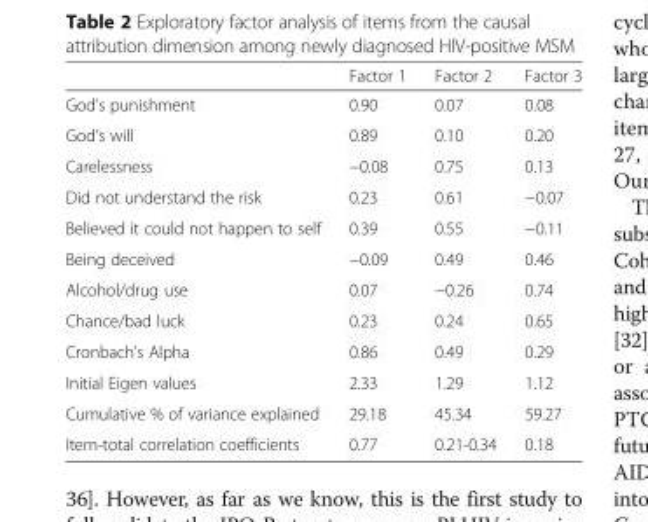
<table><thead><tr><td></td><td>Factor 1</td><td>Factor 2</td><td>Factor 3</td></tr></thead><tbody><tr><td>God’s punishment</td><td>0.90</td><td>0.07</td><td>0.08</td></tr><tr><td>God’s will</td><td>0.89</td><td>0.10</td><td>0.20</td></tr><tr><td>Carelessness</td><td>−0.08</td><td>0.75</td><td>0.13</td></tr><tr><td>Did not understand the risk</td><td>0.23</td><td>0.61</td><td>−0.07</td></tr><tr><td>Believed it could not happen to self</td><td>0.39</td><td>0.55</td><td>−0.11</td></tr><tr><td>Being deceived</td><td>−0.09</td><td>0.49</td><td>0.46</td></tr><tr><td>Alcohol/drug use</td><td>0.07</td><td>−0.26</td><td>0.74</td></tr><tr><td>Chance/bad luck</td><td>0.23</td><td>0.24</td><td>0.65</td></tr><tr><td>Cronbach’s Alpha</td><td>0.86</td><td>0.49</td><td>0.29</td></tr><tr><td>Initial Eigen values</td><td>2.33</td><td>1.29</td><td>1.12</td></tr><tr><td>Cumulative % of variance explained</td><td>29.18</td><td>45.34</td><td>59.27</td></tr><tr><td>Item-total correlation coefficients</td><td>0.77</td><td>0.21-0.34</td><td>0.18</td></tr></tbody></table>